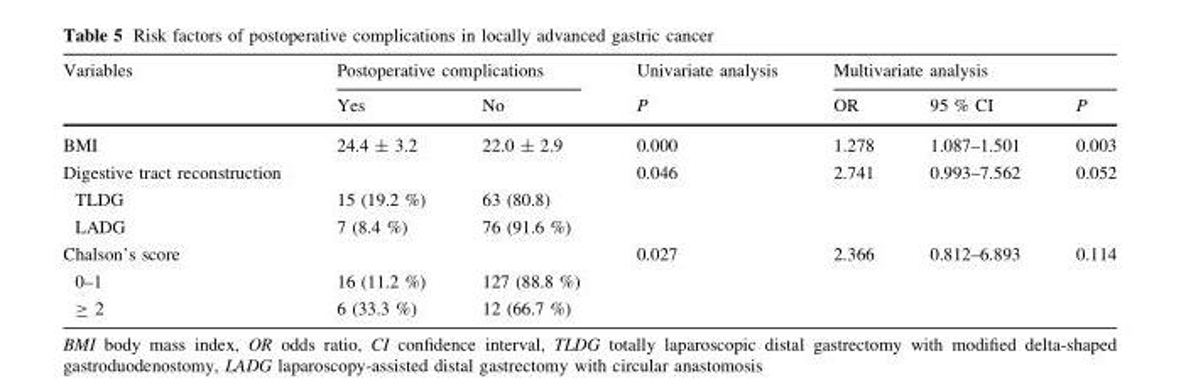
<table><thead><tr><td rowspan="2">Variables</td><td colspan="2">Postoperative complications</td><td rowspan="2">Univariate analysis P</td><td colspan="3">Multivariate analysis</td></tr><tr><td>Yes</td><td>No</td><td>OR</td><td>95 % CI</td><td>P</td></tr></thead><tbody><tr><td>BMI</td><td>24.4 ± 3.2</td><td>22.0 ± 2.9</td><td>0.000</td><td>1.278</td><td>1.087–1.501</td><td>0.003</td></tr><tr><td>Digestive tract reconstruction</td><td></td><td></td><td>0.046</td><td>2.741</td><td>0.993–7.562</td><td>0.052</td></tr><tr><td>TLDG</td><td>15 (19.2 %)</td><td>63 (80.8)</td><td></td><td></td><td></td><td></td></tr><tr><td>LADG</td><td>7 (8.4 %)</td><td>76 (91.6 %)</td><td></td><td></td><td></td><td></td></tr><tr><td>Chalson’s score</td><td></td><td></td><td>0.027</td><td>2.366</td><td>0.812–6.893</td><td>0.114</td></tr><tr><td>0–1</td><td>16 (11.2 %)</td><td>127 (88.8 %)</td><td></td><td></td><td></td><td></td></tr><tr><td>≥ 2</td><td>6 (33.3 %)</td><td>12 (66.7 %)</td><td></td><td></td><td></td><td></td></tr></tbody></table>